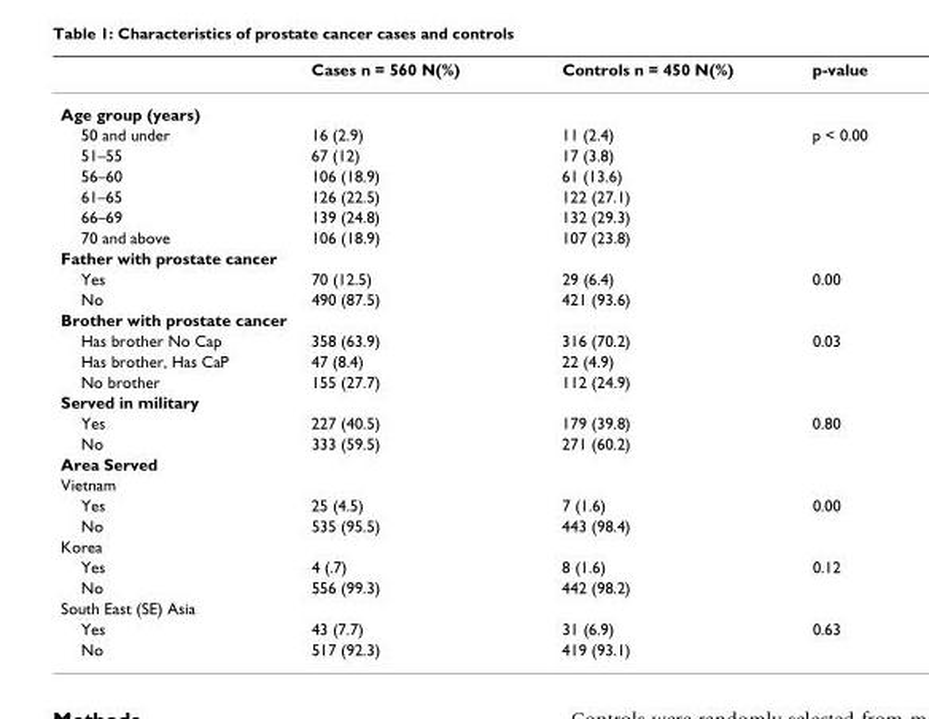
<table><thead><tr><td></td><td>Cases n = 560 N(%)</td><td>Controls n = 450 N(%)</td><td>p-value</td></tr></thead><tbody><tr><td colspan="4">Age group (years)</td></tr><tr><td>50 and under</td><td>16 (2.9)</td><td>11 (2.4)</td><td>p &lt; 0.00</td></tr><tr><td>51–55</td><td>67 (12)</td><td>17 (3.8)</td><td></td></tr><tr><td>56–60</td><td>106 (18.9)</td><td>61 (13.6)</td><td></td></tr><tr><td>61–65</td><td>126 (22.5)</td><td>122 (27.1)</td><td></td></tr><tr><td>66–69</td><td>139 (24.8)</td><td>132 (29.3)</td><td></td></tr><tr><td>70 and above</td><td>106 (18.9)</td><td>107 (23.8)</td><td></td></tr><tr><td colspan="4">Father with prostate cancer</td></tr><tr><td>Yes</td><td>70 (12.5)</td><td>29 (6.4)</td><td>0.00</td></tr><tr><td>No</td><td>490 (87.5)</td><td>421 (93.6)</td><td></td></tr><tr><td colspan="4">Brother with prostate cancer</td></tr><tr><td>Has brother No Cap</td><td>358 (63.9)</td><td>316 (70.2)</td><td>0.03</td></tr><tr><td>Has brother, Has CaP</td><td>47 (8.4)</td><td>22 (4.9)</td><td></td></tr><tr><td>No brother</td><td>155 (27.7)</td><td>112 (24.9)</td><td></td></tr><tr><td colspan="4">Served in military</td></tr><tr><td>Yes</td><td>227 (40.5)</td><td>179 (39.8)</td><td>0.80</td></tr><tr><td>No</td><td>333 (59.5)</td><td>271 (60.2)</td><td></td></tr><tr><td colspan="4">Area Served</td></tr><tr><td colspan="4">Vietnam</td></tr><tr><td>Yes</td><td>25 (4.5)</td><td>7 (1.6)</td><td>0.00</td></tr><tr><td>No</td><td>535 (95.5)</td><td>443 (98.4)</td><td></td></tr><tr><td colspan="4">Korea</td></tr><tr><td>Yes</td><td>4 (.7)</td><td>8 (1.6)</td><td>0.12</td></tr><tr><td>No</td><td>556 (99.3)</td><td>442 (98.2)</td><td></td></tr><tr><td colspan="4">South East (SE) Asia</td></tr><tr><td>Yes</td><td>43 (7.7)</td><td>31 (6.9)</td><td>0.63</td></tr><tr><td>No</td><td>517 (92.3)</td><td>419 (93.1)</td><td></td></tr></tbody></table>